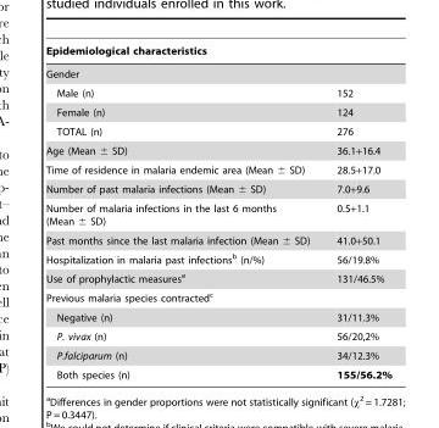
<table><thead><tr><td rowspan="2" colspan="2">Epidemiological characteristics Gender</td></tr><tr></tr><tr><td>Male (n)</td><td>152</td></tr></thead><tbody><tr><td>Female (n)</td><td>124</td></tr><tr><td>TOTAL (n)</td><td>276</td></tr><tr><td>Age (Mean ± SD)</td><td>36.1+16.4</td></tr><tr><td>Time of residence in malaria endemic area (Mean ± SD)</td><td>28.5+17.0</td></tr><tr><td>Number of past malaria infections (Mean ± SD)</td><td>7.0+9.6</td></tr><tr><td>Number of malaria infections in the last 6 months (Mean ± SD)</td><td>0.5+1.1</td></tr><tr><td>Past months since the last malaria infection (Mean ± SD)</td><td>41.0+50.1</td></tr><tr><td>Hospitalization in malaria past infections<sup>b</sup> (n/%)</td><td>56/19.8%</td></tr><tr><td>Use of prophylactic measures<sup>e</sup></td><td>131/46.5%</td></tr><tr><td colspan="2">Previous malaria species contracted<sup>c</sup></td></tr><tr><td>Negative (n)</td><td>31/11.3%</td></tr><tr><td>P. vivax (n)</td><td>56/20,2%</td></tr><tr><td>P.falciparum (n)</td><td>34/12.3%</td></tr><tr><td>Both species (n)</td><td>155/56.2%</td></tr></tbody></table>